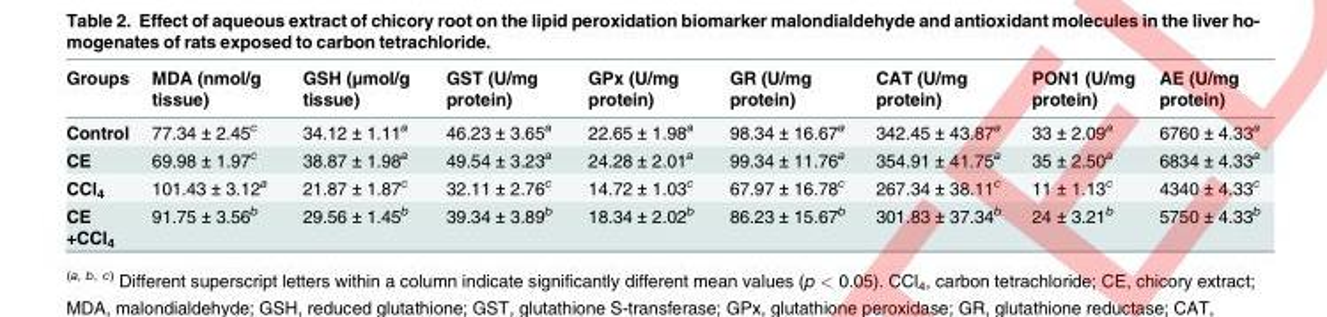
<table><thead><tr><td>Groups</td><td>MDA (nmol/g tissue)</td><td>GSH (μmol/g tissue)</td><td>GST (U/mg protein)</td><td>GPx (U/mg protein)</td><td>GR (U/mg protein)</td><td>CAT (U/mg protein)</td><td>PON1 (U/mg protein)</td><td>AE (U/mg protein)</td></tr></thead><tbody><tr><td>Control</td><td>77.34 ± 2.45c</td><td>34.12 ± 1.11a</td><td>46.23 ± 3.65a</td><td>22.65 ± 1.98a</td><td>98.34 ± 16.67a</td><td>342.45 ± 43.87a</td><td>33 ± 2.09a</td><td>6760 ± 4.33a</td></tr><tr><td>CE</td><td>69.98 ± 1.97c</td><td>38.87 ± 1.98a</td><td>49.54 ± 3.23a</td><td>24.28 ± 2.01a</td><td>99.34 ± 11.76a</td><td>354.91 ± 41.75a</td><td>35 ± 2.50a</td><td>6834 ± 4.33a</td></tr><tr><td>CCl4</td><td>101.43 ± 3.12a</td><td>21.87 ± 1.87c</td><td>32.11 ± 2.76c</td><td>14.72 ± 1.03c</td><td>67.97 ± 16.78c</td><td>267.34 ± 38.11c</td><td>11 ± 1.13c</td><td>4340 ± 4.33c</td></tr><tr><td>CE +CCl4</td><td>91.75 ± 3.56b</td><td>29.56 ± 1.45b</td><td>39.34 ± 3.89b</td><td>18.34 ± 2.02b</td><td>86.23 ± 15.67b</td><td>301.83 ± 37.34b</td><td>24 ± 3.21b</td><td>5750 ± 4.33b</td></tr></tbody></table>